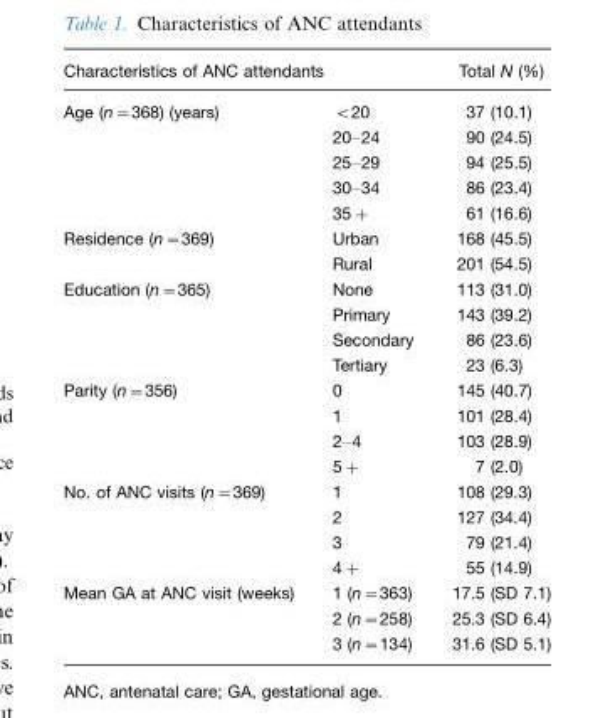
<table><thead><tr><td colspan="2">Characteristics of ANC attendants</td><td rowspan="2">Total N (%) 37 (10.1)</td></tr><tr><td>Age (n=368) (years)</td><td>&lt;20</td></tr></thead><tbody><tr><td></td><td>20–24</td><td>90 (24.5)</td></tr><tr><td></td><td>25–29</td><td>94 (25.5)</td></tr><tr><td></td><td>30–34</td><td>86 (23.4)</td></tr><tr><td></td><td>35+</td><td>61 (16.6)</td></tr><tr><td rowspan="2">Residence (n=369)</td><td>Urban</td><td>168 (45.5)</td></tr><tr><td>Rural</td><td>201 (54.5)</td></tr><tr><td rowspan="4">Education (n=365)</td><td>None</td><td>113 (31.0)</td></tr><tr><td>Primary</td><td>143 (39.2)</td></tr><tr><td>Secondary</td><td>86 (23.6)</td></tr><tr><td>Tertiary</td><td>23 (6.3)</td></tr><tr><td rowspan="4">Parity (n=356)</td><td>0</td><td>145 (40.7)</td></tr><tr><td>1</td><td>101 (28.4)</td></tr><tr><td>2–4</td><td>103 (28.9)</td></tr><tr><td>5+</td><td>7 (2.0)</td></tr><tr><td rowspan="4">No. of ANC visits (n=369)</td><td>1</td><td>108 (29.3)</td></tr><tr><td>2</td><td>127 (34.4)</td></tr><tr><td>3</td><td>79 (21.4)</td></tr><tr><td>4+</td><td>55 (14.9)</td></tr><tr><td rowspan="3">Mean GA at ANC visit (weeks)</td><td>1 (n=363)</td><td>17.5 (SD 7.1)</td></tr><tr><td>2 (n=258)</td><td>25.3 (SD 6.4)</td></tr><tr><td>3 (n=134)</td><td>31.6 (SD 5.1)</td></tr></tbody></table>